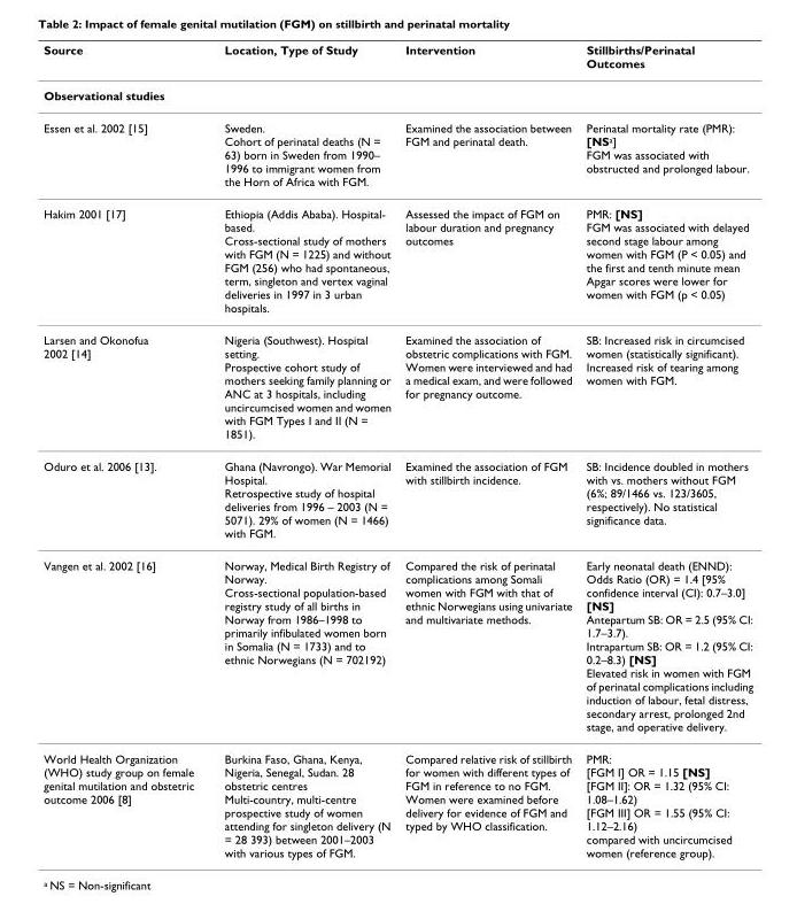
<table><thead><tr><td>Source</td><td>Location, Type of Study</td><td>Intervention</td><td>Stillbirths/Perinatal Outcomes</td></tr></thead><tbody><tr><td colspan="4">Observational studies</td></tr><tr><td>Essen et al. 2002 [15]</td><td>Sweden. Cohort of perinatal deaths (N = 63) born in Sweden from 1990– 1996 to immigrant women from the Horn of Africa with FGM.</td><td>Examined the association between FGM and perinatal death.</td><td>Perinatal mortality rate (PMR): [NS<sup>a</sup>] FGM was associated with obstructed and prolonged labour.</td></tr><tr><td>Hakim 2001 [17]</td><td>Ethiopia (Addis Ababa). Hospital- based. Cross-sectional study of mothers with FGM (N = 1225) and without FGM (256) who had spontaneous, term, singleton and vertex vaginal deliveries in 1997 in 3 urban hospitals.</td><td>Assessed the impact of FGM on labour duration and pregnancy outcomes</td><td>PMR: [NS] FGM was associated with delayed second stage labour among women with FGM (P &lt; 0.05) and the first and tenth minute mean Apgar scores were lower for women with FGM (p &lt; 0.05)</td></tr><tr><td>Larsen and Okonofua 2002 [14]</td><td>Nigeria (Southwest). Hospital setting. Prospective cohort study of mothers seeking family planning or ANC at 3 hospitals, including uncircumcised women and women with FGM Types I and II (N = 1851).</td><td>Examined the association of obstetric complications with FGM. Women were interviewed and had a medical exam, and were followed for pregnancy outcome.</td><td>SB: Increased risk in circumcised women (statistically significant). Increased risk of tearing among women with FGM.</td></tr><tr><td>Oduro et al. 2006 [13].</td><td>Ghana (Navrongo). War Memorial Hospital. Retrospective study of hospital deliveries from 1996 – 2003 (N = 5071). 29% of women (N = 1466) with FGM.</td><td>Examined the association of FGM with stillbirth incidence.</td><td>SB: Incidence doubled in mothers with vs. mothers without FGM (6%; 89/1466 vs. 123/3605, respectively). No statistical significance data.</td></tr><tr><td>Vangen et al. 2002 [16]</td><td>Norway, Medical Birth Registry of Norway. Cross-sectional population-based registry study of all births in Norway from 1986–1998 to primarily infibulated women born in Somalia (N = 1733) and to ethnic Norwegians (N = 702192)</td><td>Compared the risk of perinatal complications among Somali women with FGM with that of ethnic Norwegians using univariate and multivariate methods.</td><td>Early neonatal death (ENND): Odds Ratio (OR) = 1.4 [95% confidence interval (CI): 0.7–3.0] [NS] Antepartum SB: OR = 2.5 (95% CI: 1.7–3.7). Intrapartum SB: OR = 1.2 (95% CI: 0.2–8.3) [NS] Elevated risk in women with FGM of perinatal complications including induction of labour, fetal distress, secondary arrest, prolonged 2nd stage, and operative delivery.</td></tr><tr><td>World Health Organization (WHO) study group on female genital mutilation and obstetric outcome 2006 [8]</td><td>Burkina Faso, Ghana, Kenya, Nigeria, Senegal, Sudan. 28 obstetric centres Multi-country, multi-centre prospective study of women attending for singleton delivery (N = 28 393) between 2001–2003 with various types of FGM.</td><td>Compared relative risk of stillbirth for women with different types of FGM in reference to no FGM. Women were examined before delivery for evidence of FGM and typed by WHO classification.</td><td>PMR: [FGM I] OR = 1.15 [NS] [FGM II]: OR = 1.32 (95% CI: 1.08–1.62) [FGM III] OR = 1.55 (95% CI: 1.12–2.16) compared with uncircumcised women (reference group).</td></tr></tbody></table>